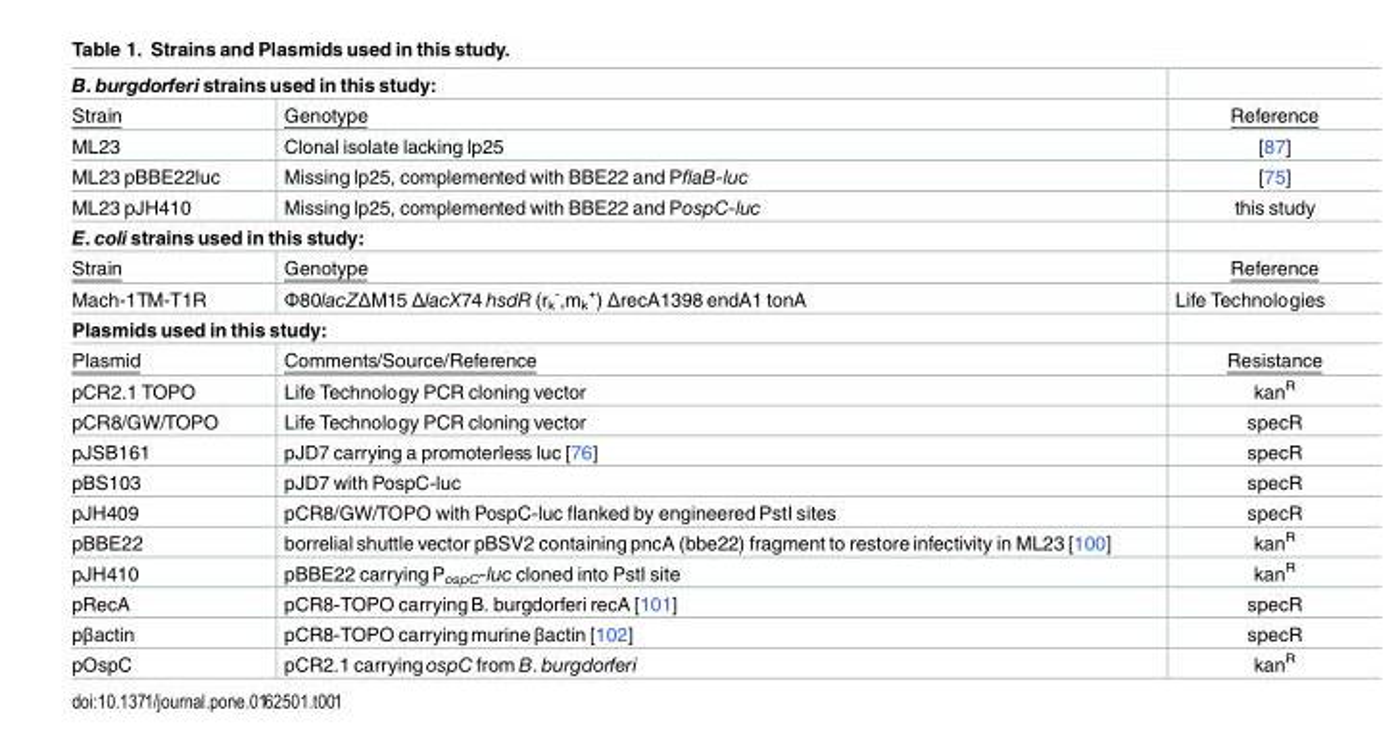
<table><tbody><tr><td colspan="3">B. burgdorferi strains used in this study:</td></tr><tr><td>Strain</td><td>Genotype</td><td>Reference</td></tr><tr><td>ML23</td><td>Clonal isolate lacking lp25</td><td>[87]</td></tr><tr><td>ML23 pBBE22luc</td><td>Missing lp25, complemented with BBE22 and PflaB-luc</td><td>[75]</td></tr><tr><td>ML23 pJH410</td><td>Missing lp25, complemented with BBE22 and PospC-luc</td><td>this study</td></tr><tr><td colspan="3">E. coli strains used in this study:</td></tr><tr><td>Strain</td><td>Genotype</td><td>Reference</td></tr><tr><td>Mach-1TM-T1R</td><td>Φ80lacZΔM15 ΔlacX74 hsdR (r<sub>k</sub> <sup>-</sup>,m<sub>k</sub> <sup>+</sup>) ΔrecA1398 endA1 tonA</td><td>Life Technologies</td></tr><tr><td colspan="3">Plasmids used in this study:</td></tr><tr><td>Plasmid</td><td>Comments/Source/Reference</td><td>Resistance</td></tr><tr><td>pCR2.1 TOPO</td><td>Life Technology PCR cloning vector</td><td>kan<sup>R</sup></td></tr><tr><td>pCR8/GW/TOPO</td><td>Life Technology PCR cloning vector</td><td>specR</td></tr><tr><td>pJSB161</td><td>pJD7 carrying a promoterless luc [76]</td><td>specR</td></tr><tr><td>pBS103</td><td>pJD7 with PospC-luc</td><td>specR</td></tr><tr><td>pJH409</td><td>pCR8/GW/TOPO with PospC-luc flanked by engineered PstI sites</td><td>specR</td></tr><tr><td>pBBE22</td><td>borrelial shuttle vector pBSV2 containing pncA (bbe22) fragment to restore infectivity in ML23 [100]</td><td>kan<sup>R</sup></td></tr><tr><td>pJH410</td><td>pBBE22 carrying P<sub>ospC</sub>-luc cloned into PstI site</td><td>kan<sup>R</sup></td></tr><tr><td>pRecA</td><td>pCR8-TOPO carrying B. burgdorferi recA [101]</td><td>specR</td></tr><tr><td>pβactin</td><td>pCR8-TOPO carrying murine βactin [102]</td><td>specR</td></tr><tr><td>pOspC</td><td>pCR2.1 carrying ospC from B. burgdorferi</td><td>kan<sup>R</sup></td></tr></tbody></table>